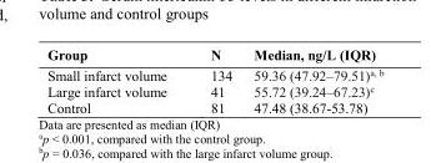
<table><thead><tr><td>Group</td><td>N</td><td>Median, ng/L (IQR)</td></tr></thead><tbody><tr><td>Small infarct volume</td><td>134</td><td>59.36 (47.92–79.51)<sup>a</sup>, <sup>b</sup></td></tr><tr><td>Large infarct volume</td><td>41</td><td>55.72 (39.24–67.23)<sup>c</sup></td></tr><tr><td>Control</td><td>81</td><td>47.48 (38.67-53.78)</td></tr></tbody></table>